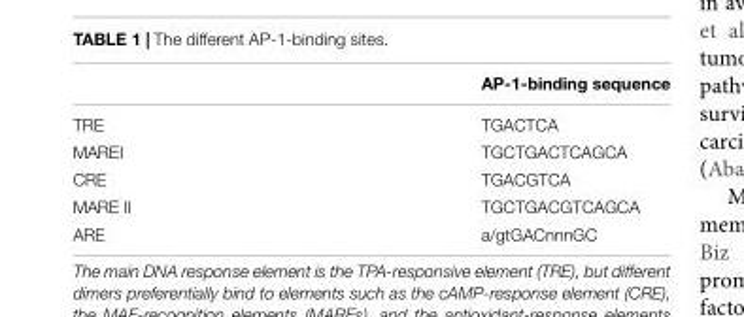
<table><thead><tr><td></td><td>AP-1-binding sequence</td></tr></thead><tbody><tr><td>TRE</td><td>TGACTCA</td></tr><tr><td>MAREI</td><td>TGCTGACTCAGCA</td></tr><tr><td>CRE</td><td>TGACGTCA</td></tr><tr><td>MARE II</td><td>TGCTGACGTCAGCA</td></tr><tr><td>ARE</td><td>a/gtGACnnnGC</td></tr></tbody></table>